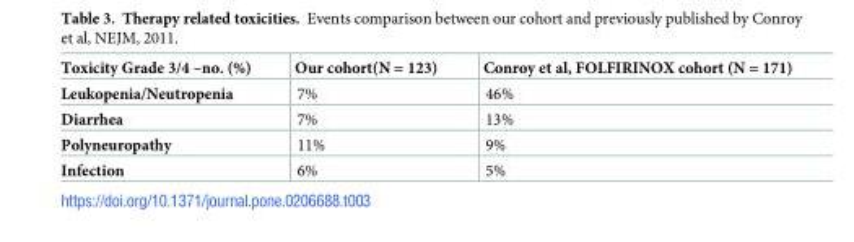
<table><thead><tr><td>Toxicity Grade 3/4 –no. (%)</td><td>Our cohort(N = 123)</td><td>Conroy et al, FOLFIRINOX cohort (N = 171)</td></tr></thead><tbody><tr><td>Leukopenia/Neutropenia</td><td>7%</td><td>46%</td></tr><tr><td>Diarrhea</td><td>7%</td><td>13%</td></tr><tr><td>Polyneuropathy</td><td>11%</td><td>9%</td></tr><tr><td>Infection</td><td>6%</td><td>5%</td></tr></tbody></table>